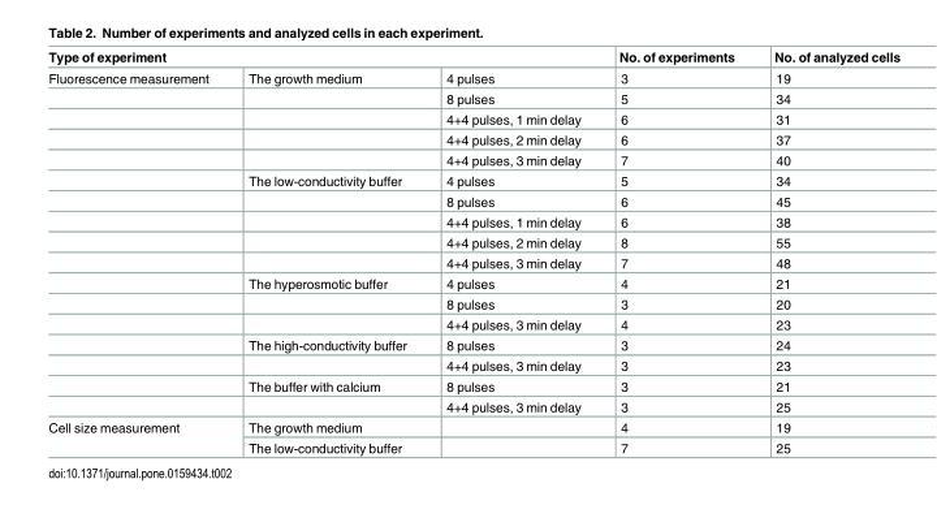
<table><thead><tr><td colspan="3">Type of experiment</td><td rowspan="2">No. of experiments 3</td><td rowspan="2">No. of analyzed cells 19</td></tr><tr><td>Fluorescence measurement</td><td>The growth medium</td><td>4 pulses</td></tr></thead><tbody><tr><td></td><td></td><td>8 pulses</td><td>5</td><td>34</td></tr><tr><td></td><td></td><td>4+4 pulses, 1 min delay</td><td>6</td><td>31</td></tr><tr><td></td><td></td><td>4+4 pulses, 2 min delay</td><td>6</td><td>37</td></tr><tr><td></td><td></td><td>4+4 pulses, 3 min delay</td><td>7</td><td>40</td></tr><tr><td></td><td>The low-conductivity buffer</td><td>4 pulses</td><td>5</td><td>34</td></tr><tr><td></td><td></td><td>8 pulses</td><td>6</td><td>45</td></tr><tr><td></td><td></td><td>4+4 pulses, 1 min delay</td><td>6</td><td>38</td></tr><tr><td></td><td></td><td>4+4 pulses, 2 min delay</td><td>8</td><td>55</td></tr><tr><td></td><td></td><td>4+4 pulses, 3 min delay</td><td>7</td><td>48</td></tr><tr><td></td><td>The hyperosmotic buffer</td><td>4 pulses</td><td>4</td><td>21</td></tr><tr><td></td><td></td><td>8 pulses</td><td>3</td><td>20</td></tr><tr><td></td><td></td><td>4+4 pulses, 3 min delay</td><td>4</td><td>23</td></tr><tr><td></td><td>The high-conductivity buffer</td><td>8 pulses</td><td>3</td><td>24</td></tr><tr><td></td><td></td><td>4+4 pulses, 3 min delay</td><td>3</td><td>23</td></tr><tr><td></td><td>The buffer with calcium</td><td>8 pulses</td><td>3</td><td>21</td></tr><tr><td></td><td></td><td>4+4 pulses, 3 min delay</td><td>3</td><td>25</td></tr><tr><td rowspan="2">Cell size measurement</td><td>The growth medium</td><td></td><td>4</td><td>19</td></tr><tr><td>The low-conductivity buffer</td><td></td><td>7</td><td>25</td></tr></tbody></table>